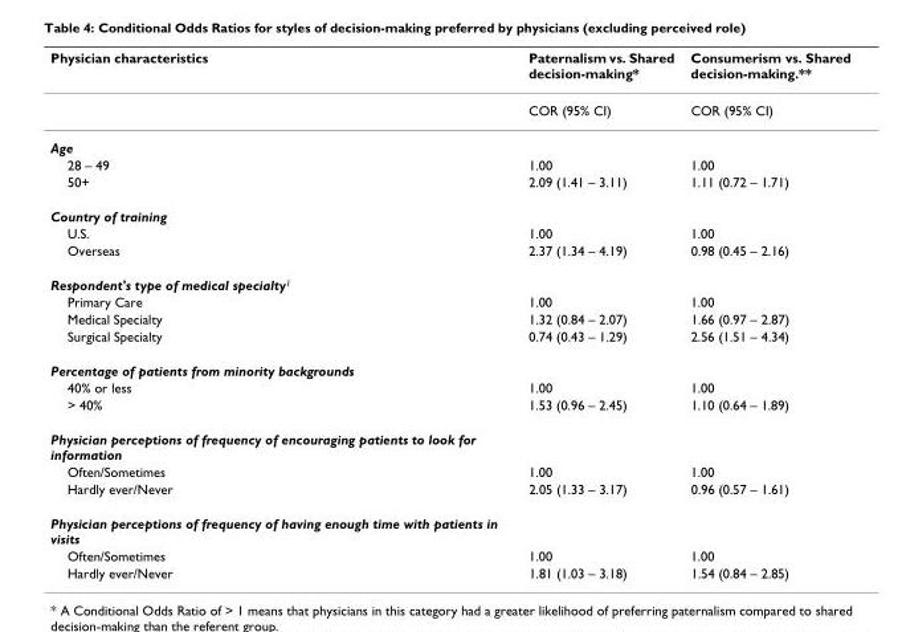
<table><thead><tr><td>Physician characteristics</td><td>Paternalism vs. Shared decision-making*</td><td>Consumerism vs. Shared decision-making.**</td></tr></thead><tbody><tr><td></td><td>COR (95% CI)</td><td>COR (95% CI)</td></tr><tr><td colspan="3">Age</td></tr><tr><td>28 – 49</td><td>1.00</td><td>1.00</td></tr><tr><td>50+</td><td>2.09 (1.41 – 3.11)</td><td>1.11 (0.72 – 1.71)</td></tr><tr><td colspan="3">Country of training</td></tr><tr><td>U.S.</td><td>1.00</td><td>1.00</td></tr><tr><td>Overseas</td><td>2.37 (1.34 – 4.19)</td><td>0.98 (0.45 – 2.16)</td></tr><tr><td colspan="3">Respondent&#x27;s type of medical specialty<sup>1</sup></td></tr><tr><td>Primary Care</td><td>1.00</td><td>1.00</td></tr><tr><td>Medical Specialty</td><td>1.32 (0.84 – 2.07)</td><td>1.66 (0.97 – 2.87)</td></tr><tr><td>Surgical Specialty</td><td>0.74 (0.43 – 1.29)</td><td>2.56 (1.51 – 4.34)</td></tr><tr><td colspan="3">Percentage of patients from minority backgrounds</td></tr><tr><td>40% or less</td><td>1.00</td><td>1.00</td></tr><tr><td>&gt; 40%</td><td>1.53 (0.96 – 2.45)</td><td>1.10 (0.64 – 1.89)</td></tr><tr><td colspan="3">Physician perceptions of frequency of encouraging patients to look for information</td></tr><tr><td>Often/Sometimes</td><td>1.00</td><td>1.00</td></tr><tr><td>Hardly ever/Never</td><td>2.05 (1.33 – 3.17)</td><td>0.96 (0.57 – 1.61)</td></tr><tr><td colspan="3">Physician perceptions of frequency of having enough time with patients in visits</td></tr><tr><td>Often/Sometimes</td><td>1.00</td><td>1.00</td></tr><tr><td>Hardly ever/Never</td><td>1.81 (1.03 – 3.18)</td><td>1.54 (0.84 – 2.85)</td></tr></tbody></table>